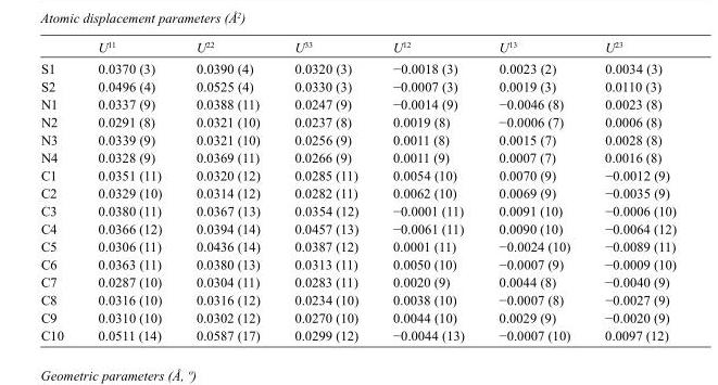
<table><thead><tr><td></td><td>U<sup>11</sup></td><td>U<sup>22</sup></td><td>U<sup>33</sup></td><td>U<sup>12</sup></td><td>U<sup>13</sup></td><td>U<sup>23</sup></td></tr></thead><tbody><tr><td>S1</td><td>0.0370 (3)</td><td>0.0390 (4)</td><td>0.0320 (3)</td><td>−0.0018 (3)</td><td>0.0023 (2)</td><td>0.0034 (3)</td></tr><tr><td>S2</td><td>0.0496 (4)</td><td>0.0525 (4)</td><td>0.0330 (3)</td><td>−0.0007 (3)</td><td>0.0019 (3)</td><td>0.0110 (3)</td></tr><tr><td>N1</td><td>0.0337 (9)</td><td>0.0388 (11)</td><td>0.0247 (9)</td><td>−0.0014 (9)</td><td>−0.0046 (8)</td><td>0.0023 (8)</td></tr><tr><td>N2</td><td>0.0291 (8)</td><td>0.0321 (10)</td><td>0.0237 (8)</td><td>0.0019 (8)</td><td>−0.0006 (7)</td><td>0.0006 (8)</td></tr><tr><td>N3</td><td>0.0339 (9)</td><td>0.0321 (10)</td><td>0.0256 (9)</td><td>0.0011 (8)</td><td>0.0015 (7)</td><td>0.0028 (8)</td></tr><tr><td>N4</td><td>0.0328 (9)</td><td>0.0369 (11)</td><td>0.0266 (9)</td><td>0.0011 (9)</td><td>0.0007 (7)</td><td>0.0016 (8)</td></tr><tr><td>C1</td><td>0.0351 (11)</td><td>0.0320 (12)</td><td>0.0285 (11)</td><td>0.0054 (10)</td><td>0.0070 (9)</td><td>−0.0012 (9)</td></tr><tr><td>C2</td><td>0.0329 (10)</td><td>0.0314 (12)</td><td>0.0282 (11)</td><td>0.0062 (10)</td><td>0.0069 (9)</td><td>−0.0035 (9)</td></tr><tr><td>C3</td><td>0.0380 (11)</td><td>0.0367 (13)</td><td>0.0354 (12)</td><td>−0.0001 (11)</td><td>0.0091 (10)</td><td>−0.0006 (10)</td></tr><tr><td>C4</td><td>0.0366 (12)</td><td>0.0394 (14)</td><td>0.0457 (13)</td><td>−0.0061 (11)</td><td>0.0090 (10)</td><td>−0.0064 (12)</td></tr><tr><td>C5</td><td>0.0306 (11)</td><td>0.0436 (14)</td><td>0.0387 (12)</td><td>0.0001 (11)</td><td>−0.0024 (10)</td><td>−0.0089 (11)</td></tr><tr><td>C6</td><td>0.0363 (11)</td><td>0.0380 (13)</td><td>0.0313 (11)</td><td>0.0050 (10)</td><td>−0.0007 (9)</td><td>−0.0009 (10)</td></tr><tr><td>C7</td><td>0.0287 (10)</td><td>0.0304 (11)</td><td>0.0283 (11)</td><td>0.0020 (9)</td><td>0.0044 (8)</td><td>−0.0040 (9)</td></tr><tr><td>C8</td><td>0.0316 (10)</td><td>0.0316 (12)</td><td>0.0234 (10)</td><td>0.0038 (10)</td><td>−0.0007 (8)</td><td>−0.0027 (9)</td></tr><tr><td>C9</td><td>0.0310 (10)</td><td>0.0302 (12)</td><td>0.0270 (10)</td><td>0.0044 (10)</td><td>0.0029 (9)</td><td>−0.0020 (9)</td></tr><tr><td>C10</td><td>0.0511 (14)</td><td>0.0587 (17)</td><td>0.0299 (12)</td><td>−0.0044 (13)</td><td>−0.0007 (10)</td><td>0.0097 (12)</td></tr></tbody></table>